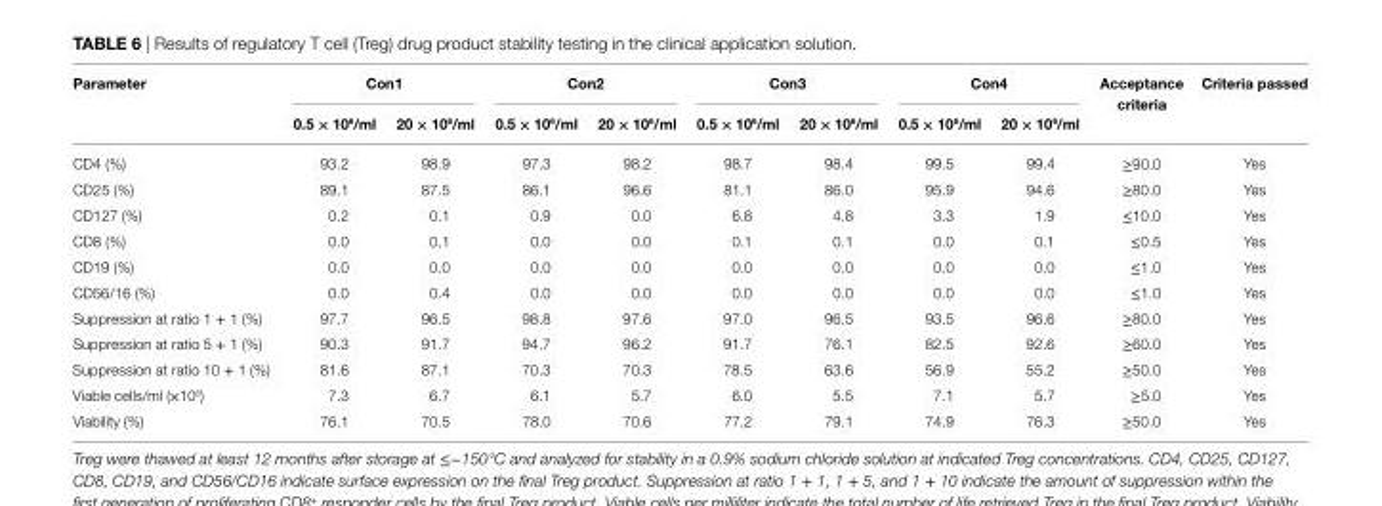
<table><thead><tr><td rowspan="2">Parameter</td><td colspan="2">con1</td><td colspan="2">con2</td><td colspan="2">con3</td><td colspan="2">con4</td><td rowspan="2">Acceptance criteria</td><td rowspan="2">criteria passed</td></tr><tr><td>0.5 × 10<sup>6</sup>/ml</td><td>20 × 10<sup>6</sup>/ml</td><td>0.5 × 10<sup>6</sup>/ml</td><td>20 × 10<sup>6</sup>/ml</td><td>0.5 × 10<sup>6</sup>/ml</td><td>20 × 10<sup>6</sup>/ml</td><td>0.5 × 10<sup>6</sup>/ml</td><td>20 × 10<sup>6</sup>/ml</td></tr></thead><tbody><tr><td>CD4 (%)</td><td>93.2</td><td>98.9</td><td>97.3</td><td>98.2</td><td>98.7</td><td>98.4</td><td>99.5</td><td>99.4</td><td>≥90.0</td><td>Yes</td></tr><tr><td>CD25 (%)</td><td>89.1</td><td>87.5</td><td>86.1</td><td>96.6</td><td>81.1</td><td>86.0</td><td>95.9</td><td>94.6</td><td>≥80.0</td><td>Yes</td></tr><tr><td>CD127 (%)</td><td>0.2</td><td>0.1</td><td>0.9</td><td>0.0</td><td>6.8</td><td>4.8</td><td>3.3</td><td>1.9</td><td>≤10.0</td><td>Yes</td></tr><tr><td>CD8 (%)</td><td>0.0</td><td>0.1</td><td>0.0</td><td>0.0</td><td>0.1</td><td>0.1</td><td>0.0</td><td>0.1</td><td>≤0.5</td><td>Yes</td></tr><tr><td>CD19 (%)</td><td>0.0</td><td>0.0</td><td>0.0</td><td>0.0</td><td>0.0</td><td>0.0</td><td>0.0</td><td>0.0</td><td>≤1.0</td><td>Yes</td></tr><tr><td>CD56/16 (%)</td><td>0.0</td><td>0.4</td><td>0.0</td><td>0.0</td><td>0.0</td><td>0.0</td><td>0.0</td><td>0.0</td><td>≤1.0</td><td>Yes</td></tr><tr><td>Suppression at ratio 1 + 1 (%)</td><td>97.7</td><td>96.5</td><td>98.8</td><td>97.6</td><td>97.0</td><td>96.5</td><td>93.5</td><td>96.6</td><td>≥80.0</td><td>Yes</td></tr><tr><td>Suppression at ratio 5 + 1 (%)</td><td>90.3</td><td>91.7</td><td>94.7</td><td>96.2</td><td>91.7</td><td>76.1</td><td>82.5</td><td>92.6</td><td>≥60.0</td><td>Yes</td></tr><tr><td>Suppression at ratio 10 + 1 (%)</td><td>81.6</td><td>87.1</td><td>70.3</td><td>70.3</td><td>78.5</td><td>63.6</td><td>56.9</td><td>55.2</td><td>≥50.0</td><td>Yes</td></tr><tr><td>Viable cells/ml (×10<sup>6</sup>)</td><td>7.3</td><td>6.7</td><td>6.1</td><td>5.7</td><td>6.0</td><td>5.5</td><td>7.1</td><td>5.7</td><td>≥5.0</td><td>Yes</td></tr><tr><td>Viability (%)</td><td>76.1</td><td>70.5</td><td>78.0</td><td>70.6</td><td>77.2</td><td>79.1</td><td>74.9</td><td>76.3</td><td>≥50.0</td><td>Yes</td></tr></tbody></table>